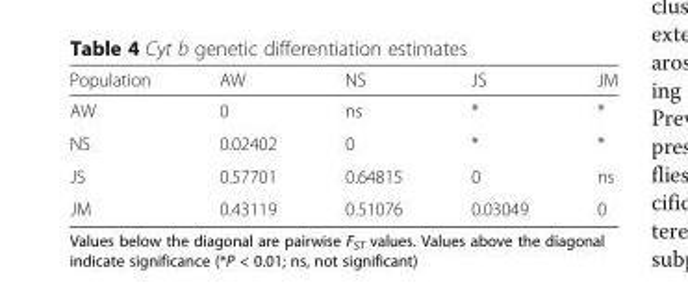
<table><thead><tr><td>Population</td><td>AW</td><td>NS</td><td>JS</td><td>JM</td></tr></thead><tbody><tr><td>AW</td><td>0</td><td>ns</td><td>*</td><td>*</td></tr><tr><td>NS</td><td>0.02402</td><td>0</td><td>*</td><td>*</td></tr><tr><td>JS</td><td>0.57701</td><td>0.64815</td><td>0</td><td>ns</td></tr><tr><td>JM</td><td>0.43119</td><td>0.51076</td><td>0.03049</td><td>0</td></tr></tbody></table>